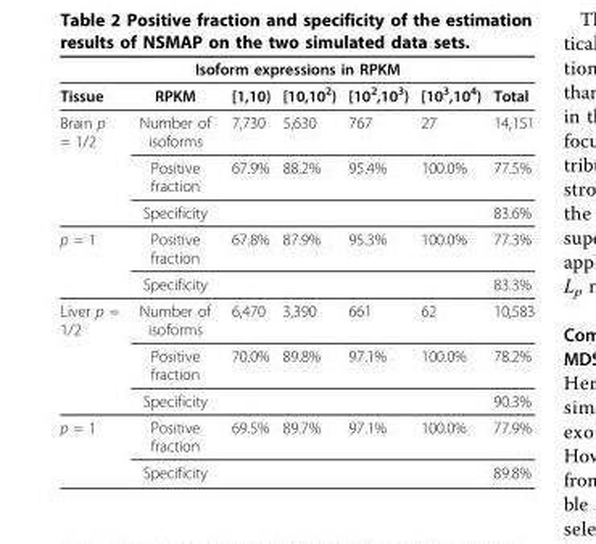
<table><thead><tr><td colspan="7">Isoform expressions in RPKM</td></tr><tr><td>Tissue</td><td>RPKM</td><td>[1,10)</td><td>[10,10<sup>2</sup>)</td><td>[10<sup>2</sup>,10<sup>3</sup>)</td><td>[10<sup>3</sup>,10<sup>4</sup>)</td><td>Total</td></tr></thead><tbody><tr><td rowspan="3">Brain p = 1/2</td><td>Number of isoforms</td><td>7,730</td><td>5,630</td><td>767</td><td>27</td><td>14,151</td></tr><tr><td>Positive fraction</td><td>67.9%</td><td>88.2%</td><td>95.4%</td><td>100.0%</td><td>77.5%</td></tr><tr><td>Specificity</td><td></td><td></td><td></td><td></td><td>83.6%</td></tr><tr><td rowspan="2">p = 1</td><td>Positive fraction</td><td>67.8%</td><td>87.9%</td><td>95.3%</td><td>100.0%</td><td>77.3%</td></tr><tr><td>Specificity</td><td></td><td></td><td></td><td></td><td>83.3%</td></tr><tr><td rowspan="3">Liver p = 1/2</td><td>Number of isoforms</td><td>6,470</td><td>3,390</td><td>661</td><td>62</td><td>10,583</td></tr><tr><td>Positive fraction</td><td>70.0%</td><td>89.8%</td><td>97.1%</td><td>100.0%</td><td>78.2%</td></tr><tr><td>Specificity</td><td></td><td></td><td></td><td></td><td>90.3%</td></tr><tr><td rowspan="2">p = 1</td><td>Positive fraction</td><td>69.5%</td><td>89.7%</td><td>97.1%</td><td>100.0%</td><td>77.9%</td></tr><tr><td>Specificity</td><td></td><td></td><td></td><td></td><td>89.8%</td></tr></tbody></table>